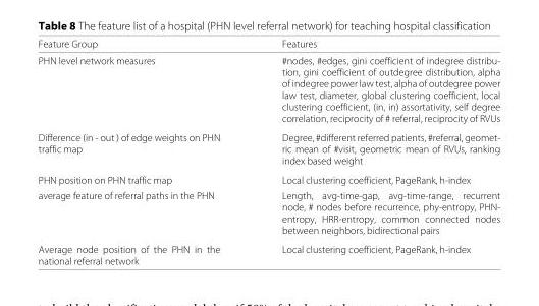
<table><thead><tr><td>Feature Group</td><td>Features</td></tr></thead><tbody><tr><td>PHN level network measures</td><td>#nodes, #edges, gini coefficient of indegree distribu- tion, gini coefficient of outdegree distribution, alpha of indegree power law test, alpha of outdegree power law test, diameter, global clustering coefficient, local clustering coefficient, (in, in) assortativity, self degree correlation, reciprocity of # referral, reciprocity of RVUs</td></tr><tr><td>Difference (in - out ) of edge weights on PHN traffic map</td><td>Degree, #different referred patients, #referral, geomet- ric mean of #visit, geometric mean of RVUs, ranking index based weight</td></tr><tr><td>PHN position on PHN traffic map</td><td>Local clustering coefficient, PageRank, h-index</td></tr><tr><td>average feature of referral paths in the PHN</td><td>Length, avg-time-gap, avg-time-range, recurrent node, # nodes before recurrence, phy-entropy, PHN- entropy, HRR-entropy, common connected nodes between neighbors, bidirectional pairs</td></tr><tr><td>Average node position of the PHN in the national referral network</td><td>Local clustering coefficient, PageRank, h-index</td></tr></tbody></table>